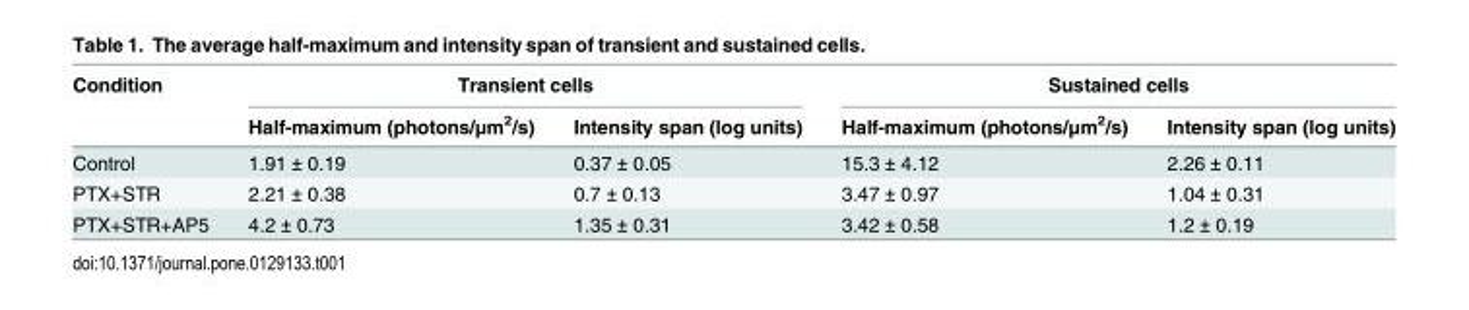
<table><thead><tr><td rowspan="2">Condition</td><td colspan="2">Transient cells</td><td colspan="2">Sustained cells</td></tr><tr><td>Half-maximum (photons/μm<sup>2</sup>/s)</td><td>Intensity span (log units)</td><td>Half-maximum (photons/μm<sup>2</sup>/s)</td><td>Intensity span (log units)</td></tr></thead><tbody><tr><td>Control</td><td>1.91 ± 0.19</td><td>0.37 ± 0.05</td><td>15.3 ± 4.12</td><td>2.26 ± 0.11</td></tr><tr><td>PTX+STR</td><td>2.21 ± 0.38</td><td>0.7 ± 0.13</td><td>3.47 ± 0.97</td><td>1.04 ± 0.31</td></tr><tr><td>PTX+STR+AP5</td><td>4.2 ± 0.73</td><td>1.35 ± 0.31</td><td>3.42 ± 0.58</td><td>1.2 ± 0.19</td></tr></tbody></table>